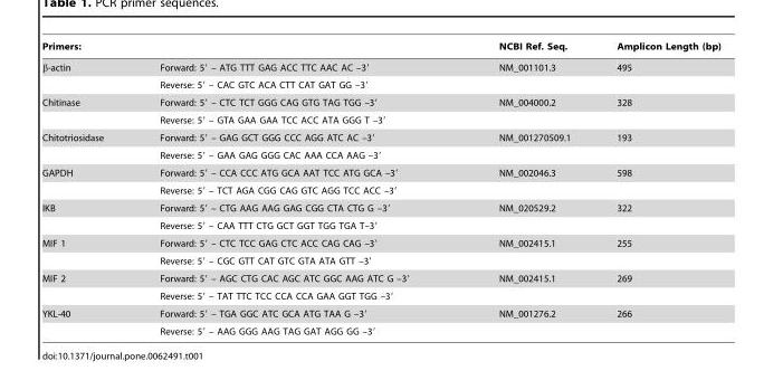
<table><thead><tr><td>Primers:</td><td></td><td>NCBI Ref. Seq.</td><td>Amplicon Length (bp)</td></tr></thead><tbody><tr><td rowspan="2">β-actin</td><td>Forward: 5′ – ATG TTT GAG ACC TTC AAC AC –3′</td><td>NM_001101.3</td><td>495</td></tr><tr><td>Reverse: 5′ – CAC GTC ACA CTT CAT GAT GG –3′</td><td></td><td></td></tr><tr><td rowspan="2">Chitinase</td><td>Forward: 5′ – CTC TCT GGG CAG GTG TAG TGG –3′</td><td>NM_004000.2</td><td>328</td></tr><tr><td>Reverse: 5′ – GTA GAA GAA TCC ACC ATA GGG T –3′</td><td></td><td></td></tr><tr><td rowspan="2">Chitotriosidase</td><td>Forward: 5′ – GAG GCT GGG CCC AGG ATC AC –3′</td><td>NM_001270509.1</td><td>193</td></tr><tr><td>Reverse: 5′ – GAA GAG GGG CAC AAA CCA AAG –3′</td><td></td><td></td></tr><tr><td rowspan="2">GAPDH</td><td>Forward: 5′ – CCA CCC ATG GCA AAT TCC ATG GCA –3′</td><td>NM_002046.3</td><td>598</td></tr><tr><td>Reverse: 5′ – TCT AGA CGG CAG GTC AGG TCC ACC –3′</td><td></td><td></td></tr><tr><td rowspan="2">IKB</td><td>Forward: 5′ – CTG AAG AAG GAG CGG CTA CTG G –3′</td><td>NM_020529.2</td><td>322</td></tr><tr><td>Reverse: 5′ – CAA TTT CTG GCT GGT TGG TGA T–3′</td><td></td><td></td></tr><tr><td rowspan="2">MIF 1</td><td>Forward: 5′ – CTC TCC GAG CTC ACC CAG CAG –3′</td><td>NM_002415.1</td><td>255</td></tr><tr><td>Reverse: 5′ – CGC GTT CAT GTC GTA ATA GTT –3′</td><td></td><td></td></tr><tr><td rowspan="2">MIF 2</td><td>Forward: 5′ – AGC CTG CAC AGC ATC GGC AAG ATC G –3′</td><td>NM_002415.1</td><td>269</td></tr><tr><td>Reverse: 5′ – TAT TTC TCC CCA CCA GAA GGT TGG –3′</td><td></td><td></td></tr><tr><td rowspan="2">YKL-40</td><td>Forward: 5′ – TGA GGC ATC GCA ATG TAA G –3′</td><td>NM_001276.2</td><td>266</td></tr><tr><td>Reverse: 5′ – AAG GGG AAG TAG GAT AGG GG –3′</td><td></td><td></td></tr></tbody></table>